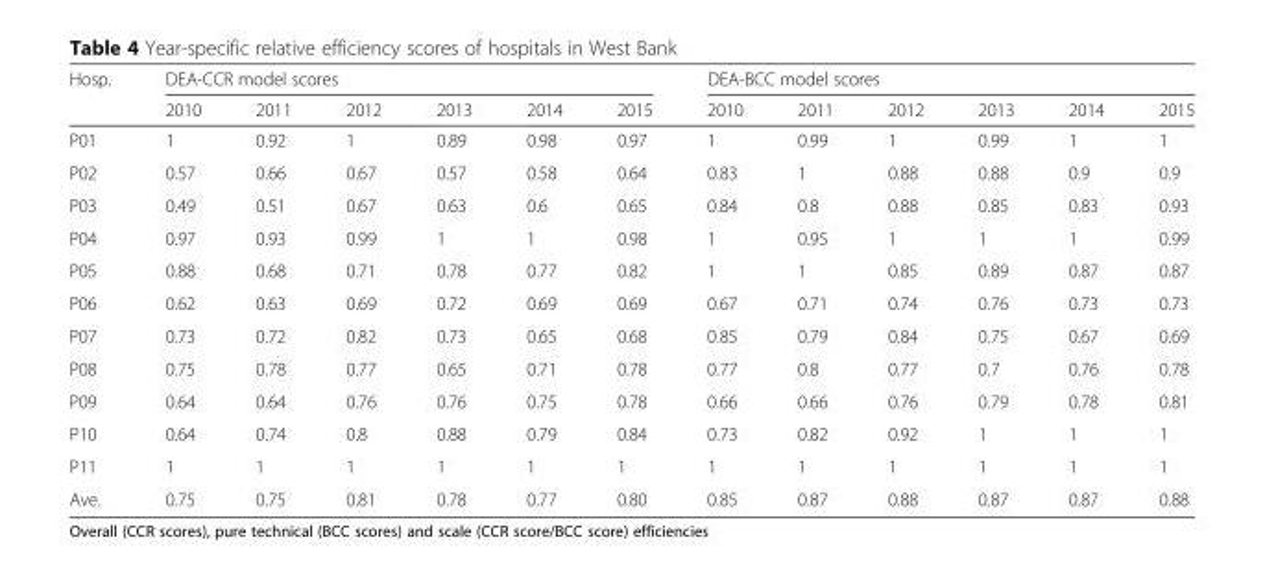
<table><thead><tr><td rowspan="2">Hosp.</td><td colspan="6">DEA-CCR model scores</td><td colspan="6">DEA-BCC model scores</td></tr><tr><td>2010</td><td>2011</td><td>2012</td><td>2013</td><td>2014</td><td>2015</td><td>2010</td><td>2011</td><td>2012</td><td>2013</td><td>2014</td><td>2015</td></tr></thead><tbody><tr><td>P01</td><td>1</td><td>0.92</td><td>1</td><td>0.89</td><td>0.98</td><td>0.97</td><td>1</td><td>0.99</td><td>1</td><td>0.99</td><td>1</td><td>1</td></tr><tr><td>P02</td><td>0.57</td><td>0.66</td><td>0.67</td><td>0.57</td><td>0.58</td><td>0.64</td><td>0.83</td><td>1</td><td>0.88</td><td>0.88</td><td>0.9</td><td>0.9</td></tr><tr><td>P03</td><td>0.49</td><td>0.51</td><td>0.67</td><td>0.63</td><td>0.6</td><td>0.65</td><td>0.84</td><td>0.8</td><td>0.88</td><td>0.85</td><td>0.83</td><td>0.93</td></tr><tr><td>P04</td><td>0.97</td><td>0.93</td><td>0.99</td><td>1</td><td>1</td><td>0.98</td><td>1</td><td>0.95</td><td>1</td><td>1</td><td>1</td><td>0.99</td></tr><tr><td>P05</td><td>0.88</td><td>0.68</td><td>0.71</td><td>0.78</td><td>0.77</td><td>0.82</td><td>1</td><td>1</td><td>0.85</td><td>0.89</td><td>0.87</td><td>0.87</td></tr><tr><td>P06</td><td>0.62</td><td>0.63</td><td>0.69</td><td>0.72</td><td>0.69</td><td>0.69</td><td>0.67</td><td>0.71</td><td>0.74</td><td>0.76</td><td>0.73</td><td>0.73</td></tr><tr><td>P07</td><td>0.73</td><td>0.72</td><td>0.82</td><td>0.73</td><td>0.65</td><td>0.68</td><td>0.85</td><td>0.79</td><td>0.84</td><td>0.75</td><td>0.67</td><td>0.69</td></tr><tr><td>P08</td><td>0.75</td><td>0.78</td><td>0.77</td><td>0.65</td><td>0.71</td><td>0.78</td><td>0.77</td><td>0.8</td><td>0.77</td><td>0.7</td><td>0.76</td><td>0.78</td></tr><tr><td>P09</td><td>0.64</td><td>0.64</td><td>0.76</td><td>0.76</td><td>0.75</td><td>0.78</td><td>0.66</td><td>0.66</td><td>0.76</td><td>0.79</td><td>0.78</td><td>0.81</td></tr><tr><td>P10</td><td>0.64</td><td>0.74</td><td>0.8</td><td>0.88</td><td>0.79</td><td>0.84</td><td>0.73</td><td>0.82</td><td>0.92</td><td>1</td><td>1</td><td>1</td></tr><tr><td>P11</td><td>1</td><td>1</td><td>1</td><td>1</td><td>1</td><td>1</td><td>1</td><td>1</td><td>1</td><td>1</td><td>1</td><td>1</td></tr><tr><td>Ave.</td><td>0.75</td><td>0.75</td><td>0.81</td><td>0.78</td><td>0.77</td><td>0.80</td><td>0.85</td><td>0.87</td><td>0.88</td><td>0.87</td><td>0.87</td><td>0.88</td></tr></tbody></table>